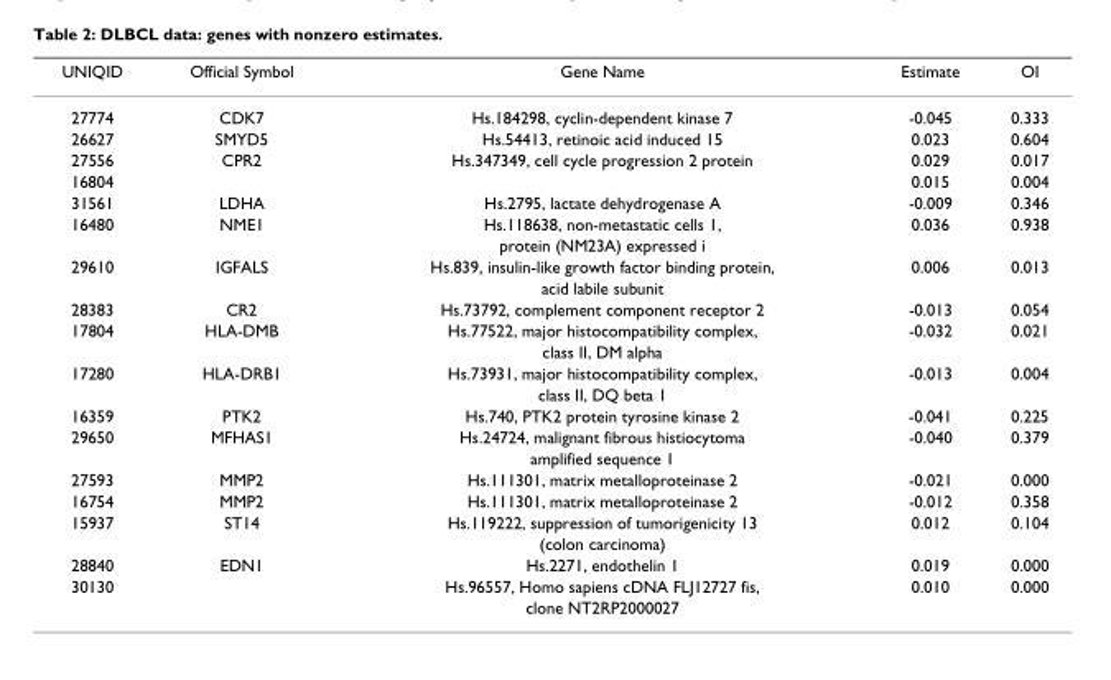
<table><thead><tr><td>UNIQID</td><td>Official Symbol</td><td>Gene Name</td><td>Estimate</td><td>OI</td></tr></thead><tbody><tr><td>27774</td><td>CDK7</td><td>Hs.184298, cyclin-dependent kinase 7</td><td>-0.045</td><td>0.333</td></tr><tr><td>26627</td><td>SMYD5</td><td>Hs.54413, retinoic acid induced 15</td><td>0.023</td><td>0.604</td></tr><tr><td>27556</td><td>CPR2</td><td>Hs.347349, cell cycle progression 2 protein</td><td>0.029</td><td>0.017</td></tr><tr><td>16804</td><td></td><td></td><td>0.015</td><td>0.004</td></tr><tr><td>31561</td><td>LDHA</td><td>Hs.2795, lactate dehydrogenase A</td><td>-0.009</td><td>0.346</td></tr><tr><td rowspan="2">16480</td><td>NME1</td><td>Hs.118638, non-metastatic cells 1,</td><td>0.036</td><td>0.938</td></tr><tr><td></td><td>protein (NM23A) expressed i</td><td></td><td></td></tr><tr><td rowspan="2">29610</td><td>IGFALS</td><td>Hs.839, insulin-like growth factor binding protein,</td><td>0.006</td><td>0.013</td></tr><tr><td></td><td>acid labile subunit</td><td></td><td></td></tr><tr><td>28383</td><td>CR2</td><td>Hs.73792, complement component receptor 2</td><td>-0.013</td><td>0.054</td></tr><tr><td rowspan="2">17804</td><td>HLA-DMB</td><td>Hs.77522, major histocompatibility complex,</td><td>-0.032</td><td>0.021</td></tr><tr><td></td><td>class II, DM alpha</td><td></td><td></td></tr><tr><td rowspan="2">17280</td><td>HLA-DRB1</td><td>Hs.73931, major histocompatibility complex,</td><td>-0.013</td><td>0.004</td></tr><tr><td></td><td>class II, DQ beta 1</td><td></td><td></td></tr><tr><td>16359</td><td>PTK2</td><td>Hs.740, PTK2 protein tyrosine kinase 2</td><td>-0.041</td><td>0.225</td></tr><tr><td rowspan="2">29650</td><td>MFHAS1</td><td>Hs.24724, malignant fibrous histiocytoma</td><td>-0.040</td><td>0.379</td></tr><tr><td></td><td>amplified sequence 1</td><td></td><td></td></tr><tr><td>27593</td><td>MMP2</td><td>Hs.111301, matrix metalloproteinase 2</td><td>-0.021</td><td>0.000</td></tr><tr><td>16754</td><td>MMP2</td><td>Hs.111301, matrix metalloproteinase 2</td><td>-0.012</td><td>0.358</td></tr><tr><td rowspan="2">15937</td><td>ST14</td><td>Hs.119222, suppression of tumorigenicity 13</td><td>0.012</td><td>0.104</td></tr><tr><td></td><td>(colon carcinoma)</td><td></td><td></td></tr><tr><td>28840</td><td>EDN1</td><td>Hs.2271, endothelin 1</td><td>0.019</td><td>0.000</td></tr><tr><td rowspan="2">30130</td><td></td><td>Hs.96557, Homo sapiens cDNA FLJ12727 fis,</td><td>0.010</td><td>0.000</td></tr><tr><td></td><td>clone NT2RP2000027</td><td></td><td></td></tr></tbody></table>